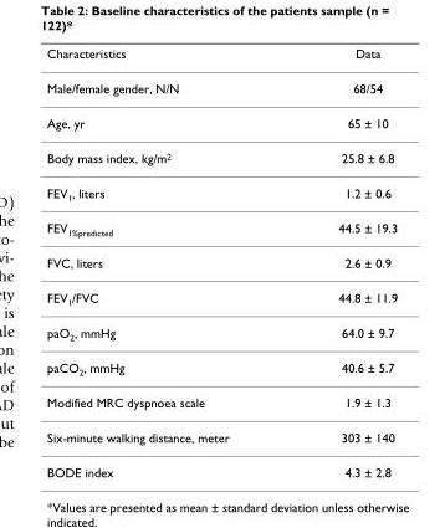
<table><thead><tr><td>Characteristics</td><td>Data</td></tr></thead><tbody><tr><td>Male/female gender, N/N</td><td>68/54</td></tr><tr><td>Age, yr</td><td>65 ± 10</td></tr><tr><td>Body mass index, kg/m<sup>2</sup></td><td>25.8 ± 6.8</td></tr><tr><td>FEV<sub>1</sub>, liters</td><td>1.2 ± 0.6</td></tr><tr><td>FEV<sub>1%predicted</sub></td><td>44.5 ± 19.3</td></tr><tr><td>FVC, liters</td><td>2.6 ± 0.9</td></tr><tr><td>FEV<sub>1</sub>/FVC</td><td>44.8 ± 11.9</td></tr><tr><td>paO<sub>2</sub>, mmHg</td><td>64.0 ± 9.7</td></tr><tr><td>paCO<sub>2</sub>, mmHg</td><td>40.6 ± 5.7</td></tr><tr><td>Modified MRC dyspnoea scale</td><td>1.9 ± 1.3</td></tr><tr><td>Six-minute walking distance, meter</td><td>303 ± 140</td></tr><tr><td>BODE index</td><td>4.3 ± 2.8</td></tr></tbody></table>